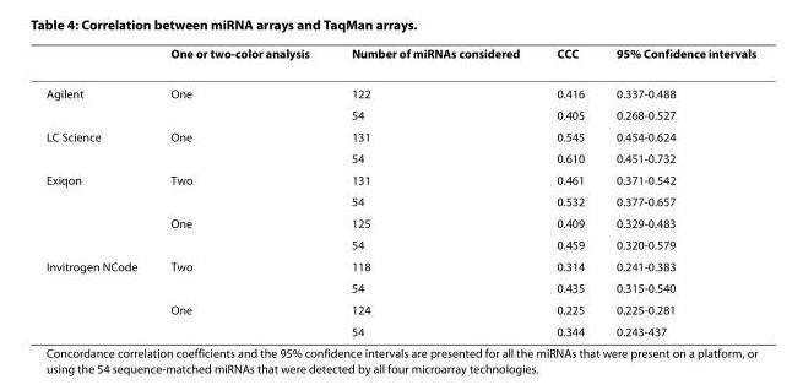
<table><thead><tr><td></td><td>One or two-color analysis</td><td>Number of miRNAs considered</td><td>CCC</td><td>95% Confidence intervals</td></tr></thead><tbody><tr><td rowspan="2">Agilent</td><td>One</td><td>122</td><td>0.416</td><td>0.337-0.488</td></tr><tr><td></td><td>54</td><td>0.405</td><td>0.268-0.527</td></tr><tr><td rowspan="2">LC Science</td><td>One</td><td>131</td><td>0.545</td><td>0.454-0.624</td></tr><tr><td></td><td>54</td><td>0.610</td><td>0.451-0.732</td></tr><tr><td rowspan="4">Exiqon</td><td>Two</td><td>131</td><td>0.461</td><td>0.371-0.542</td></tr><tr><td></td><td>54</td><td>0.532</td><td>0.377-0.657</td></tr><tr><td>One</td><td>125</td><td>0.409</td><td>0.329-0.483</td></tr><tr><td></td><td>54</td><td>0.459</td><td>0.320-0.579</td></tr><tr><td rowspan="4">Invitrogen NCode</td><td>Two</td><td>118</td><td>0.314</td><td>0.241-0.383</td></tr><tr><td></td><td>54</td><td>0.435</td><td>0.315-0.540</td></tr><tr><td>One</td><td>124</td><td>0.225</td><td>0.225-0.281</td></tr><tr><td></td><td>54</td><td>0.344</td><td>0.243-437</td></tr></tbody></table>